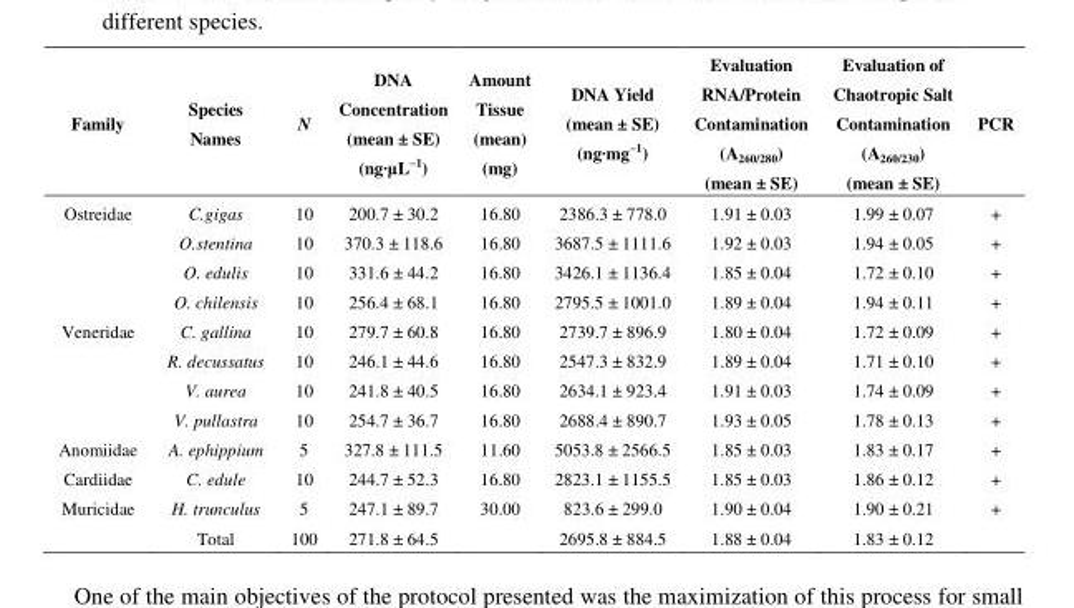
<table><thead><tr><td>Family</td><td>Species Names</td><td>N</td><td>DNA Concentration (mean ± SE) (ng·µL<sup>−1</sup>)</td><td>Amount Tissue (mean) (mg)</td><td>DNA Yield (mean ± SE) (ng·mg<sup>−1</sup>)</td><td>Evaluation RNA/Protein Contamination (A<sub>260/280</sub>) (mean ± SE)</td><td>Evaluation of Chaotropic Salt Contamination (A<sub>260/230</sub>) (mean ± SE)</td><td>PCR</td></tr></thead><tbody><tr><td rowspan="4">Ostreidae</td><td>C.gigas</td><td>10</td><td>200.7 ± 30.2</td><td>16.80</td><td>2386.3 ± 778.0</td><td>1.91 ± 0.03</td><td>1.99 ± 0.07</td><td>+</td></tr><tr><td>O.stentina</td><td>10</td><td>370.3 ± 118.6</td><td>16.80</td><td>3687.5 ± 1111.6</td><td>1.92 ± 0.03</td><td>1.94 ± 0.05</td><td>+</td></tr><tr><td>O. edulis</td><td>10</td><td>331.6 ± 44.2</td><td>16.80</td><td>3426.1 ± 1136.4</td><td>1.85 ± 0.04</td><td>1.72 ± 0.10</td><td>+</td></tr><tr><td>O. chilensis</td><td>10</td><td>256.4 ± 68.1</td><td>16.80</td><td>2795.5 ± 1001.0</td><td>1.89 ± 0.04</td><td>1.94 ± 0.11</td><td>+</td></tr><tr><td rowspan="4">Veneridae</td><td>C. gallina</td><td>10</td><td>279.7 ± 60.8</td><td>16.80</td><td>2739.7 ± 896.9</td><td>1.80 ± 0.04</td><td>1.72 ± 0.09</td><td>+</td></tr><tr><td>R. decussatus</td><td>10</td><td>246.1 ± 44.6</td><td>16.80</td><td>2547.3 ± 832.9</td><td>1.89 ± 0.04</td><td>1.71 ± 0.10</td><td>+</td></tr><tr><td>V. aurea</td><td>10</td><td>241.8 ± 40.5</td><td>16.80</td><td>2634.1 ± 923.4</td><td>1.91 ± 0.03</td><td>1.74 ± 0.09</td><td>+</td></tr><tr><td>V. pullastra</td><td>10</td><td>254.7 ± 36.7</td><td>16.80</td><td>2688.4 ± 890.7</td><td>1.93 ± 0.05</td><td>1.78 ± 0.13</td><td>+</td></tr><tr><td>Anomiidae</td><td>A. ephippium</td><td>5</td><td>327.8 ± 111.5</td><td>11.60</td><td>5053.8 ± 2566.5</td><td>1.85 ± 0.03</td><td>1.83 ± 0.17</td><td>+</td></tr><tr><td>Cardiidae</td><td>C. edule</td><td>10</td><td>244.7 ± 52.3</td><td>16.80</td><td>2823.1 ± 1155.5</td><td>1.85 ± 0.03</td><td>1.86 ± 0.12</td><td>+</td></tr><tr><td rowspan="2">Muricidae</td><td>H. trunculus</td><td>5</td><td>247.1 ± 89.7</td><td>30.00</td><td>823.6 ± 299.0</td><td>1.90 ± 0.04</td><td>1.90 ± 0.21</td><td>+</td></tr><tr><td>Total</td><td>100</td><td>271.8 ± 64.5</td><td></td><td>2695.8 ± 884.5</td><td>1.88 ± 0.04</td><td>1.83 ± 0.12</td><td></td></tr></tbody></table>